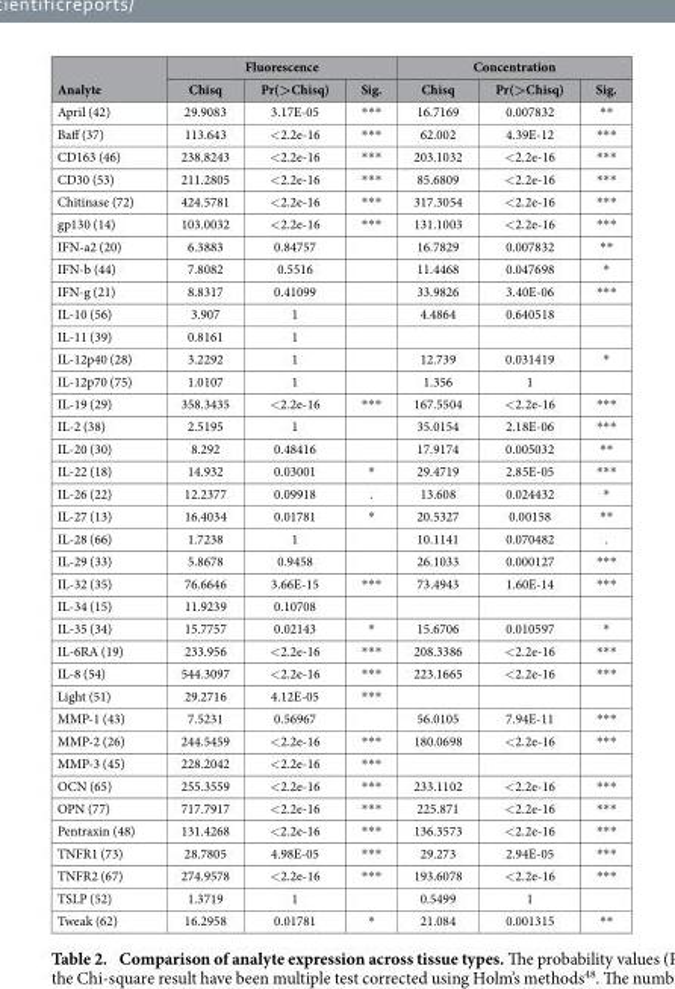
<table><thead><tr><td rowspan="2">Analyte</td><td colspan="3">Fluorescence</td><td colspan="3">Concentration</td></tr><tr><td>Chisq</td><td>Pr(&gt;Chisq)</td><td>Sig.</td><td>Chisq</td><td>Pr(&gt;Chisq)</td><td>Sig.</td></tr></thead><tbody><tr><td>April (42)</td><td>29.9083</td><td>3.17E-05</td><td>* * *</td><td>16.7169</td><td>0.007832</td><td>* *</td></tr><tr><td>Baff (37)</td><td>113.643</td><td>&lt; 2.2e-16</td><td>* * *</td><td>62.002</td><td>4.39E-12</td><td>* * *</td></tr><tr><td>CD163 (46)</td><td>238.8243</td><td>&lt; 2.2e-16</td><td>* * *</td><td>203.1032</td><td>&lt; 2.2e-16</td><td>* * *</td></tr><tr><td>CD30 (53)</td><td>211.2805</td><td>&lt; 2.2e-16</td><td>* * *</td><td>85.6809</td><td>&lt; 2.2e-16</td><td>* * *</td></tr><tr><td>Chitinase (72)</td><td>424.5781</td><td>&lt; 2.2e-16</td><td>* * *</td><td>317.3054</td><td>&lt; 2.2e-16</td><td>* * *</td></tr><tr><td>gp130 (14)</td><td>103.0032</td><td>&lt; 2.2e-16</td><td>* * *</td><td>131.1003</td><td>&lt; 2.2e-16</td><td>* * *</td></tr><tr><td>IFN-a2 (20)</td><td>6.3883</td><td>0.84757</td><td></td><td>16.7829</td><td>0.007832</td><td>* *</td></tr><tr><td>IFN-b (44)</td><td>7.8082</td><td>0.5516</td><td></td><td>11.4468</td><td>0.047698</td><td>*</td></tr><tr><td>IFN-g (21)</td><td>8.8317</td><td>0.41099</td><td></td><td>33.9826</td><td>3.40E-06</td><td>* * *</td></tr><tr><td>IL-10 (56)</td><td>3.907</td><td>1</td><td></td><td>4.4864</td><td>0.640518</td><td></td></tr><tr><td>IL-11 (39)</td><td>0.8161</td><td>1</td><td></td><td></td><td></td><td></td></tr><tr><td>IL-12p40 (28)</td><td>3.2292</td><td>1</td><td></td><td>12.739</td><td>0.031419</td><td>*</td></tr><tr><td>IL-12p70 (75)</td><td>1.0107</td><td>1</td><td></td><td>1.356</td><td>1</td><td></td></tr><tr><td>IL-19 (29)</td><td>358.3435</td><td>&lt; 2.2e-16</td><td>* * *</td><td>167.5504</td><td>&lt; 2.2e-16</td><td>* * *</td></tr><tr><td>IL-2 (38)</td><td>2.5195</td><td>1</td><td></td><td>35.0154</td><td>2.18E-06</td><td>* * *</td></tr><tr><td>IL-20 (30)</td><td>8.292</td><td>0.48416</td><td></td><td>17.9174</td><td>0.005032</td><td>* *</td></tr><tr><td>IL-22 (18)</td><td>14.932</td><td>0.03001</td><td>*</td><td>29.4719</td><td>2.85E-05</td><td>* * *</td></tr><tr><td>IL-26 (22)</td><td>12.2377</td><td>0.09918</td><td>.</td><td>13.608</td><td>0.024432</td><td>*</td></tr><tr><td>IL-27 (13)</td><td>16.4034</td><td>0.01781</td><td>*</td><td>20.5327</td><td>0.00158</td><td>* *</td></tr><tr><td>IL-28 (66)</td><td>1.7238</td><td>1</td><td></td><td>10.1141</td><td>0.070482</td><td>.</td></tr><tr><td>IL-29 (33)</td><td>5.8678</td><td>0.9458</td><td></td><td>26.1033</td><td>0.000127</td><td>* * *</td></tr><tr><td>IL-32 (35)</td><td>76.6646</td><td>3.66E-15</td><td>* * *</td><td>73.4943</td><td>1.60E-14</td><td>* * *</td></tr><tr><td>IL-34 (15)</td><td>11.9239</td><td>0.10708</td><td></td><td></td><td></td><td></td></tr><tr><td>IL-35 (34)</td><td>15.7757</td><td>0.02143</td><td>*</td><td>15.6706</td><td>0.010597</td><td>*</td></tr><tr><td>IL-6RA (19)</td><td>233.956</td><td>&lt; 2.2e-16</td><td>* * *</td><td>208.3386</td><td>&lt; 2.2e-16</td><td>* * *</td></tr><tr><td>IL-8 (54)</td><td>544.3097</td><td>&lt; 2.2e-16</td><td>* * *</td><td>223.1665</td><td>&lt; 2.2e-16</td><td>* * *</td></tr><tr><td>Light (51)</td><td>29.2716</td><td>4.12E-05</td><td>* * *</td><td></td><td></td><td></td></tr><tr><td>MMP-1 (43)</td><td>7.5231</td><td>0.56967</td><td></td><td>56.0105</td><td>7.94E-11</td><td>* * *</td></tr><tr><td>MMP-2 (26)</td><td>244.5459</td><td>&lt; 2.2e-16</td><td>* * *</td><td>180.0698</td><td>&lt; 2.2e-16</td><td>* * *</td></tr><tr><td>MMP-3 (45)</td><td>228.2042</td><td>&lt; 2.2e-16</td><td>* * *</td><td></td><td></td><td></td></tr><tr><td>OCN (65)</td><td>255.3559</td><td>&lt; 2.2e-16</td><td>* * *</td><td>233.1102</td><td>&lt; 2.2e-16</td><td>* * *</td></tr><tr><td>OPN (77)</td><td>717.7917</td><td>&lt; 2.2e-16</td><td>* * *</td><td>225.871</td><td>&lt; 2.2e-16</td><td>* * *</td></tr><tr><td>Pentraxin (48)</td><td>131.4268</td><td>&lt; 2.2e-16</td><td>* * *</td><td>136.3573</td><td>&lt; 2.2e-16</td><td>* * *</td></tr><tr><td>TNFR1 (73)</td><td>28.7805</td><td>4.98E-05</td><td>* * *</td><td>29.273</td><td>2.94E-05</td><td>* * *</td></tr><tr><td>TNFR2 (67)</td><td>274.9578</td><td>&lt; 2.2e-16</td><td>* * *</td><td>193.6078</td><td>&lt; 2.2e-16</td><td>* * *</td></tr><tr><td>TSLP (52)</td><td>1.3719</td><td>1</td><td></td><td>0.5499</td><td>1</td><td></td></tr><tr><td>Tweak (62)</td><td>16.2958</td><td>0.01781</td><td>*</td><td>21.084</td><td>0.001315</td><td>* *</td></tr></tbody></table>